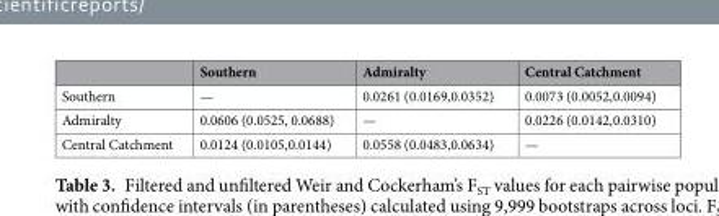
<table><thead><tr><td></td><td>Southern</td><td>Admiralty</td><td>Central Catchment</td></tr></thead><tbody><tr><td>Southern</td><td>—</td><td>0.0261 (0.0169,0.0352)</td><td>0.0073 (0.0052,0.0094)</td></tr><tr><td>Admiralty</td><td>0.0606 (0.0525, 0.0688)</td><td>—</td><td>0.0226 (0.0142,0.0310)</td></tr><tr><td>Central Catchment</td><td>0.0124 (0.0105,0.0144)</td><td>0.0558 (0.0483,0.0634)</td><td>—</td></tr></tbody></table>